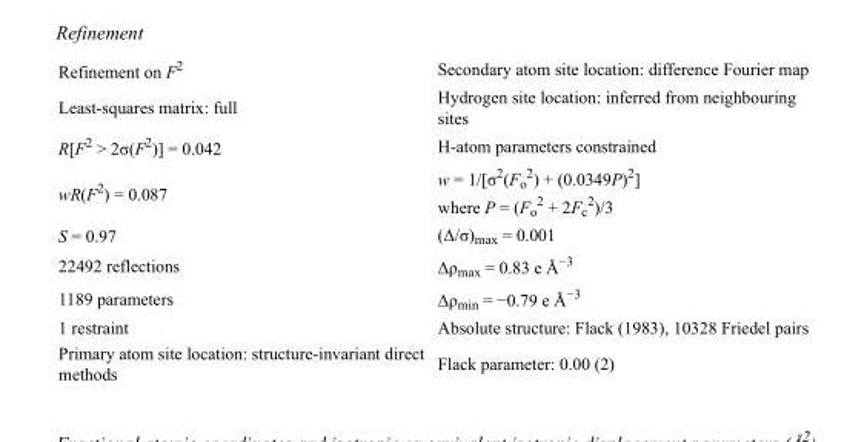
<table><tbody><tr><td>Refinement on F<sup>2</sup></td><td>Secondary atom site location: difference Fourier map</td></tr><tr><td>Least-squares matrix: full</td><td>Hydrogen site location: inferred from neighbouring sites</td></tr><tr><td>R[F<sup>2</sup> &gt; 2σ(F<sup>2</sup>)] = 0.042</td><td>H-atom parameters constrained</td></tr><tr><td>wR(F<sup>2</sup>) = 0.087</td><td>w = 1/[σ<sup>2</sup>(F<sub>o</sub> <sup>2</sup>) + (0.0349P)<sup>2</sup>] where P = (F<sub>o</sub> <sup>2</sup> + 2F<sub>c</sub> <sup>2</sup>)/3</td></tr><tr><td>S = 0.97</td><td>(Δ/σ)<sub>max</sub> = 0.001</td></tr><tr><td>22492 reflections</td><td>Δρ<sub>max</sub> = 0.83 e Å<sup>−3</sup></td></tr><tr><td>1189 parameters</td><td>Δρ<sub>min</sub> = −0.79 e Å<sup>−3</sup></td></tr><tr><td>1 restraint</td><td>Absolute structure: Flack (1983), 10328 Friedel pairs</td></tr><tr><td>Primary atom site location: structure-invariant direct methods</td><td>Flack parameter: 0.00 (2)</td></tr></tbody></table>